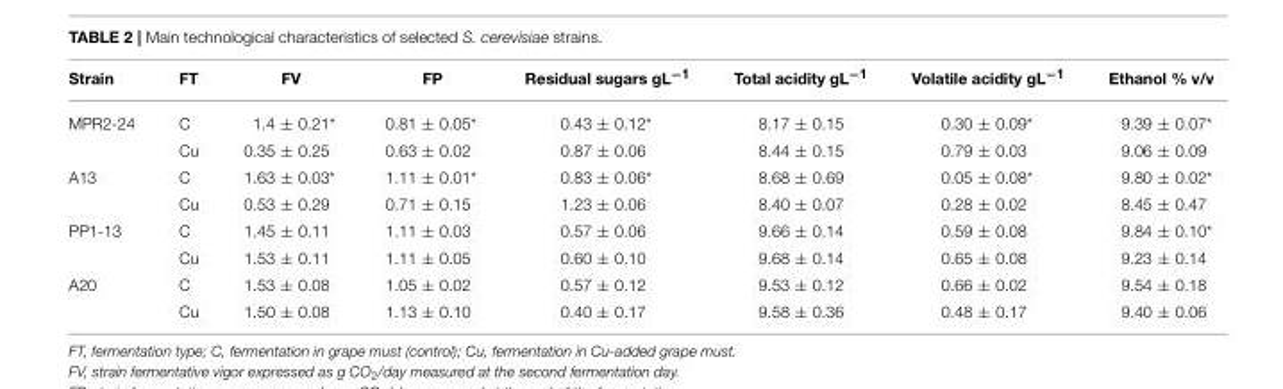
<table><thead><tr><td>Strain</td><td>FT</td><td>FV</td><td>FP</td><td>Residual sugars gL<sup>−1</sup></td><td>Total acidity gL<sup>−1</sup></td><td>Volatile acidity gL<sup>−1</sup></td><td>Ethanol % v/v</td></tr></thead><tbody><tr><td rowspan="2">MPR2-24</td><td>C</td><td>1.4 ± 0.21*</td><td>0.81 ± 0.05*</td><td>0.43 ± 0.12*</td><td>8.17 ± 0.15</td><td>0.30 ± 0.09*</td><td>9.39 ± 0.07*</td></tr><tr><td>Cu</td><td>0.35 ± 0.25</td><td>0.63 ± 0.02</td><td>0.87 ± 0.06</td><td>8.44 ± 0.15</td><td>0.79 ± 0.03</td><td>9.06 ± 0.09</td></tr><tr><td rowspan="2">A13</td><td>C</td><td>1.63 ± 0.03*</td><td>1.11 ± 0.01*</td><td>0.83 ± 0.06*</td><td>8.68 ± 0.69</td><td>0.05 ± 0.08*</td><td>9.80 ± 0.02*</td></tr><tr><td>Cu</td><td>0.53 ± 0.29</td><td>0.71 ± 0.15</td><td>1.23 ± 0.06</td><td>8.40 ± 0.07</td><td>0.28 ± 0.02</td><td>8.45 ± 0.47</td></tr><tr><td rowspan="2">PP1-13</td><td>C</td><td>1.45 ± 0.11</td><td>1.11 ± 0.03</td><td>0.57 ± 0.06</td><td>9.66 ± 0.14</td><td>0.59 ± 0.08</td><td>9.84 ± 0.10*</td></tr><tr><td>Cu</td><td>1.53 ± 0.11</td><td>1.11 ± 0.05</td><td>0.60 ± 0.10</td><td>9.68 ± 0.14</td><td>0.65 ± 0.08</td><td>9.23 ± 0.14</td></tr><tr><td rowspan="2">A20</td><td>C</td><td>1.53 ± 0.08</td><td>1.05 ± 0.02</td><td>0.57 ± 0.12</td><td>9.53 ± 0.12</td><td>0.66 ± 0.02</td><td>9.54 ± 0.18</td></tr><tr><td>Cu</td><td>1.50 ± 0.08</td><td>1.13 ± 0.10</td><td>0.40 ± 0.17</td><td>9.58 ± 0.36</td><td>0.48 ± 0.17</td><td>9.40 ± 0.06</td></tr></tbody></table>